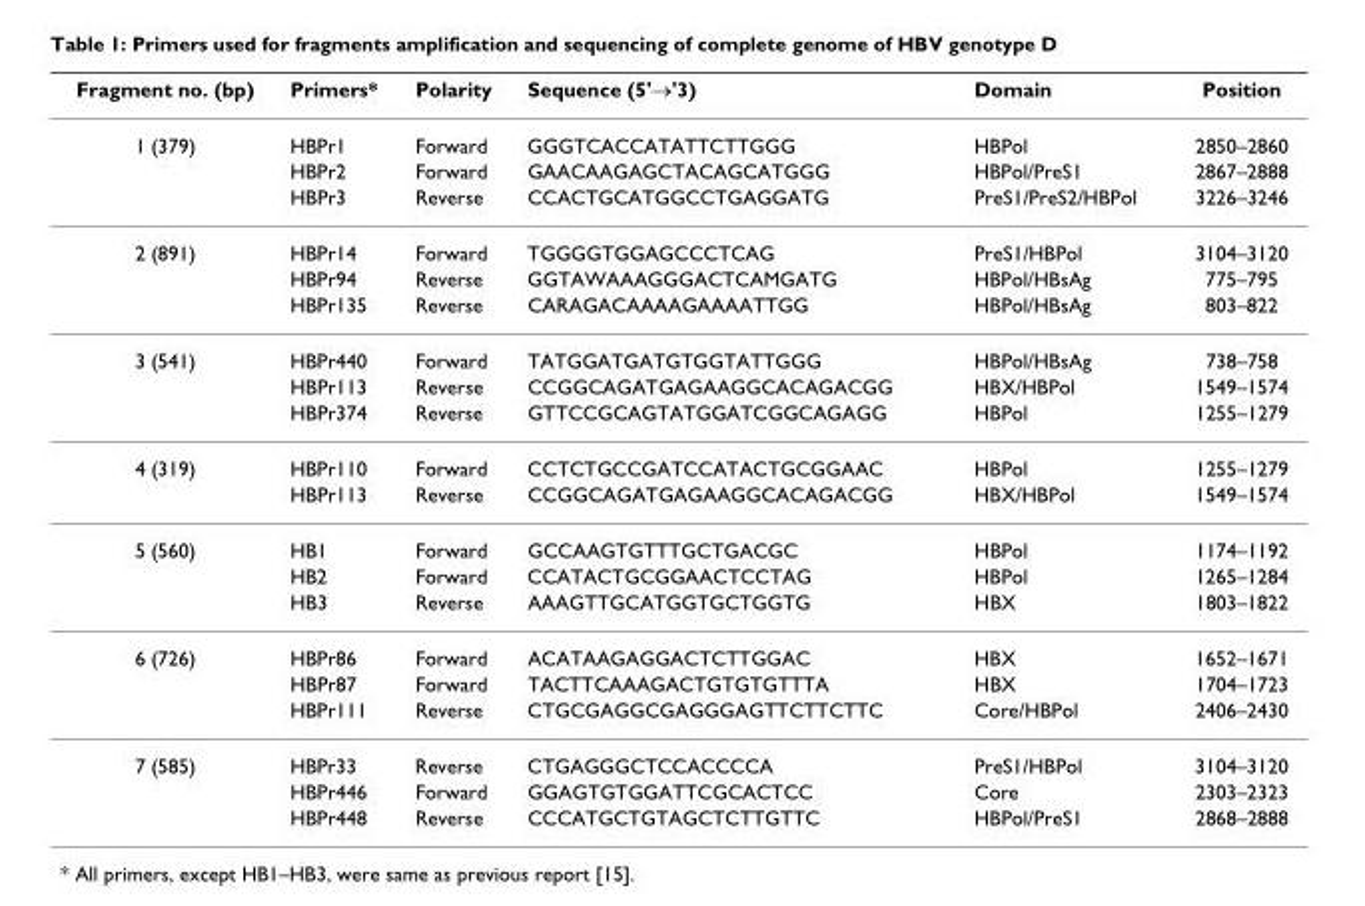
<table><thead><tr><td>Fragment no. (bp)</td><td>Primers*</td><td>Polarity</td><td>Sequence (5&#x27;→&#x27;3)</td><td>Domain</td><td>Position</td></tr></thead><tbody><tr><td rowspan="3">1 (379)</td><td>HBPr1</td><td>Forward</td><td>GGGTCACCATATTCTTGGG</td><td>HBPol</td><td>2850–2860</td></tr><tr><td>HBPr2</td><td>Forward</td><td>GAACAAGAGCTACAGCATGGG</td><td>HBPol/PreS1</td><td>2867–2888</td></tr><tr><td>HBPr3</td><td>Reverse</td><td>CCACTGCATGGCCTGAGGATG</td><td>PreS1/PreS2/HBPol</td><td>3226–3246</td></tr><tr><td rowspan="3">2 (891)</td><td>HBPr14</td><td>Forward</td><td>TGGGGTGGAGCCCTCAG</td><td>PreS1/HBPol</td><td>3104–3120</td></tr><tr><td>HBPr94</td><td>Reverse</td><td>GGTAWAAAGGGACTCAMGATG</td><td>HBPol/HBsAg</td><td>775–795</td></tr><tr><td>HBPr135</td><td>Reverse</td><td>CARAGACAAAAGAAAATTGG</td><td>HBPol/HBsAg</td><td>803–822</td></tr><tr><td rowspan="3">3 (541)</td><td>HBPr440</td><td>Forward</td><td>TATGGATGATGTGGTATTGGG</td><td>HBPol/HBsAg</td><td>738–758</td></tr><tr><td>HBPr113</td><td>Reverse</td><td>CCGGCAGATGAGAAGGCACAGACGG</td><td>HBX/HBPol</td><td>1549–1574</td></tr><tr><td>HBPr374</td><td>Reverse</td><td>GTTCCGCAGTATGGATCGGCAGAGG</td><td>HBPol</td><td>1255–1279</td></tr><tr><td rowspan="2">4 (319)</td><td>HBPr110</td><td>Forward</td><td>CCTCTGCCGATCCATACTGCGGAAC</td><td>HBPol</td><td>1255–1279</td></tr><tr><td>HBPr113</td><td>Reverse</td><td>CCGGCAGATGAGAAGGCACAGACGG</td><td>HBX/HBPol</td><td>1549–1574</td></tr><tr><td rowspan="3">5 (560)</td><td>HB1</td><td>Forward</td><td>GCCAAGTGTTTGCTGACGC</td><td>HBPol</td><td>1174–1192</td></tr><tr><td>HB2</td><td>Forward</td><td>CCATACTGCGGAACTCCTAG</td><td>HBPol</td><td>1265–1284</td></tr><tr><td>HB3</td><td>Reverse</td><td>AAAGTTGCATGGTGCTGGTG</td><td>HBX</td><td>1803–1822</td></tr><tr><td rowspan="3">6 (726)</td><td>HBPr86</td><td>Forward</td><td>ACATAAGAGGACTCTTGGAC</td><td>HBX</td><td>1652–1671</td></tr><tr><td>HBPr87</td><td>Forward</td><td>TACTTCAAAGACTGTGTGTTTA</td><td>HBX</td><td>1704–1723</td></tr><tr><td>HBPr111</td><td>Reverse</td><td>CTGCGAGGCGAGGGAGTTCTTCTTC</td><td>Core/HBPol</td><td>2406–2430</td></tr><tr><td rowspan="3">7 (585)</td><td>HBPr33</td><td>Reverse</td><td>CTGAGGGCTCCACCCCA</td><td>PreS1/HBPol</td><td>3104–3120</td></tr><tr><td>HBPr446</td><td>Forward</td><td>GGAGTGTGGATTCGCACTCC</td><td>Core</td><td>2303–2323</td></tr><tr><td>HBPr448</td><td>Reverse</td><td>CCCATGCTGTAGCTCTTGTTC</td><td>HBPol/PreS1</td><td>2868–2888</td></tr></tbody></table>